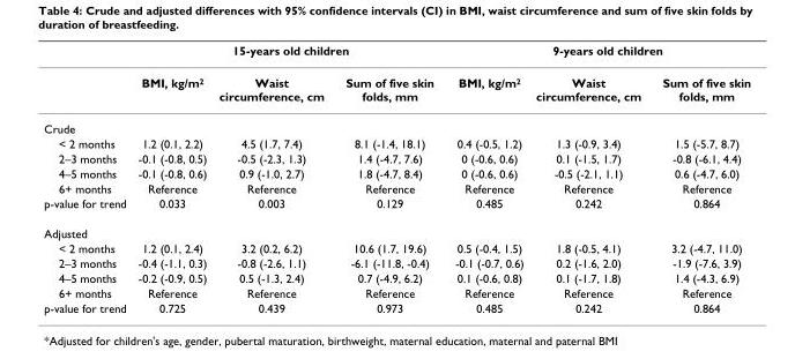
<table><thead><tr><td rowspan="2"></td><td colspan="3">15-years old children</td><td colspan="3">9-years old children</td></tr><tr><td>BMI, kg/m<sup>2</sup></td><td>Waist circumference, cm</td><td>Sum of five skin folds, mm</td><td>BMI, kg/m<sup>2</sup></td><td>Waist circumference, cm</td><td>Sum of five skin folds, mm</td></tr></thead><tbody><tr><td colspan="7">Crude</td></tr><tr><td>&lt; 2 months</td><td>1.2 (0.1, 2.2)</td><td>4.5 (1.7, 7.4)</td><td>8.1 (-1.4, 18.1)</td><td>0.4 (-0.5, 1.2)</td><td>1.3 (-0.9, 3.4)</td><td>1.5 (-5.7, 8.7)</td></tr><tr><td>2–3 months</td><td>-0.1 (-0.8, 0.5)</td><td>-0.5 (-2.3, 1.3)</td><td>1.4 (-4.7, 7.6)</td><td>0 (-0.6, 0.6)</td><td>0.1 (-1.5, 1.7)</td><td>-0.8 (-6.1, 4.4)</td></tr><tr><td>4–5 months</td><td>-0.1 (-0.8, 0.6)</td><td>0.9 (-1.0, 2.7)</td><td>1.8 (-4.7, 8.4)</td><td>0 (-0.6, 0.6)</td><td>-0.5 (-2.1, 1.1)</td><td>0.6 (-4.7, 6.0)</td></tr><tr><td>6+ months</td><td>Reference</td><td>Reference</td><td>Reference</td><td>Reference</td><td>Reference</td><td>Reference</td></tr><tr><td>p-value for trend</td><td>0.033</td><td>0.003</td><td>0.129</td><td>0.485</td><td>0.242</td><td>0.864</td></tr><tr><td colspan="7">Adjusted</td></tr><tr><td>&lt; 2 months</td><td>1.2 (0.1, 2.4)</td><td>3.2 (0.2, 6.2)</td><td>10.6 (1.7, 19.6)</td><td>0.5 (-0.4, 1.5)</td><td>1.8 (-0.5, 4.1)</td><td>3.2 (-4.7, 11.0)</td></tr><tr><td>2–3 months</td><td>-0.4 (-1.1, 0.3)</td><td>-0.8 (-2.6, 1.1)</td><td>-6.1 (-11.8, -0.4)</td><td>-0.1 (-0.7, 0.6)</td><td>0.2 (-1.6, 2.0)</td><td>-1.9 (-7.6, 3.9)</td></tr><tr><td>4–5 months</td><td>-0.2 (-0.9, 0.5)</td><td>0.5 (-1.3, 2.4)</td><td>0.7 (-4.9, 6.2)</td><td>0.1 (-0.6, 0.8)</td><td>0.1 (-1.7, 1.8)</td><td>1.4 (-4.3, 6.9)</td></tr><tr><td>6+ months</td><td>Reference</td><td>Reference</td><td>Reference</td><td>Reference</td><td>Reference</td><td>Reference</td></tr><tr><td>p-value for trend</td><td>0.725</td><td>0.439</td><td>0.973</td><td>0.485</td><td>0.242</td><td>0.864</td></tr></tbody></table>